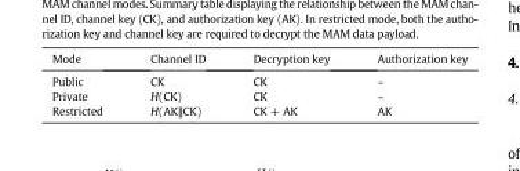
<table><thead><tr><td>Mode</td><td>Channel ID</td><td>Decryption key</td><td>Authorization key</td></tr></thead><tbody><tr><td>Public</td><td>CK</td><td>CK</td><td>–</td></tr><tr><td>Private</td><td>H(CK)</td><td>CK</td><td>–</td></tr><tr><td>Restricted</td><td>H(AK‖CK)</td><td>CK + AK</td><td>AK</td></tr></tbody></table>